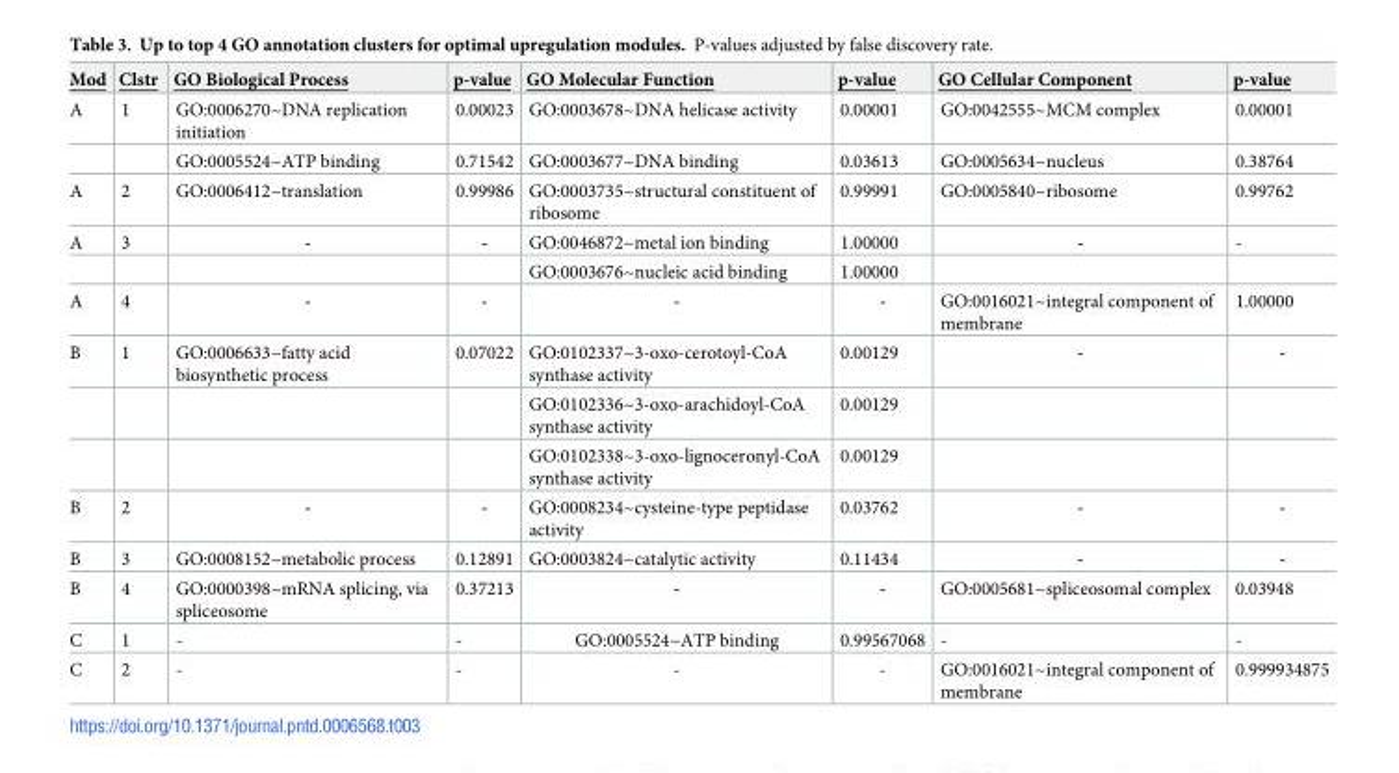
<table><thead><tr><td>Mod</td><td>Clstr</td><td>GO Biological Process</td><td>p-value</td><td>GO Molecular Function</td><td>p-value</td><td>GO Cellular Component</td><td>p-value</td></tr></thead><tbody><tr><td rowspan="2">A</td><td>1</td><td>GO:0006270~DNA replication initiation</td><td>0.00023</td><td>GO:0003678~DNA helicase activity</td><td>0.00001</td><td>GO:0042555~MCM complex</td><td>0.00001</td></tr><tr><td></td><td>GO:0005524~ATP binding</td><td>0.71542</td><td>GO:0003677~DNA binding</td><td>0.03613</td><td>GO:0005634~nucleus</td><td>0.38764</td></tr><tr><td>A</td><td>2</td><td>GO:0006412~translation</td><td>0.99986</td><td>GO:0003735~structural constituent of ribosome</td><td>0.99991</td><td>GO:0005840~ribosome</td><td>0.99762</td></tr><tr><td rowspan="2">A</td><td>3</td><td>-</td><td>-</td><td>GO:0046872~metal ion binding</td><td>1.00000</td><td>-</td><td>-</td></tr><tr><td></td><td></td><td></td><td>GO:0003676~nucleic acid binding</td><td>1.00000</td><td></td><td></td></tr><tr><td>A</td><td>4</td><td>-</td><td>-</td><td>-</td><td>-</td><td>GO:0016021~integral component of membrane</td><td>1.00000</td></tr><tr><td rowspan="3">B</td><td>1</td><td>GO:0006633~fatty acid biosynthetic process</td><td>0.07022</td><td>GO:0102337~3-oxo-cerotoyl-CoA synthase activity</td><td>0.00129</td><td>-</td><td>-</td></tr><tr><td></td><td></td><td></td><td>GO:0102336~3-oxo-arachidoyl-CoA synthase activity</td><td>0.00129</td><td></td><td></td></tr><tr><td></td><td></td><td></td><td>GO:0102338~3-oxo-lignoceronyl-CoA synthase activity</td><td>0.00129</td><td></td><td></td></tr><tr><td>B</td><td>2</td><td>-</td><td>-</td><td>GO:0008234~cysteine-type peptidase activity</td><td>0.03762</td><td>-</td><td>-</td></tr><tr><td>B</td><td>3</td><td>GO:0008152~metabolic process</td><td>0.12891</td><td>GO:0003824~catalytic activity</td><td>0.11434</td><td>-</td><td>-</td></tr><tr><td>B</td><td>4</td><td>GO:0000398~mRNA splicing, via spliceosome</td><td>0.37213</td><td>-</td><td>-</td><td>GO:0005681~spliceosomal complex</td><td>0.03948</td></tr><tr><td>C</td><td>1</td><td>-</td><td>-</td><td>GO:0005524~ATP binding</td><td>0.99567068</td><td>-</td><td>-</td></tr><tr><td>C</td><td>2</td><td>-</td><td>-</td><td>-</td><td>-</td><td>GO:0016021~integral component of membrane</td><td>0.999934875</td></tr></tbody></table>